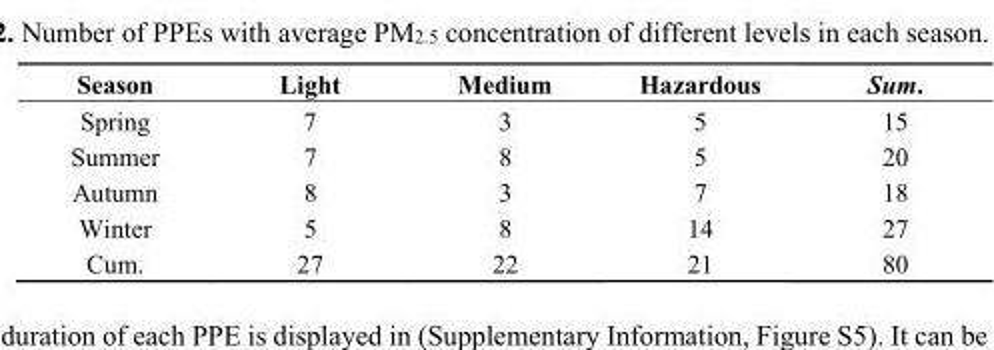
<table><thead><tr><td>Season</td><td>Light</td><td>Medium</td><td>Hazardous</td><td>Sum.</td></tr></thead><tbody><tr><td>Spring</td><td>7</td><td>3</td><td>5</td><td>15</td></tr><tr><td>Summer</td><td>7</td><td>8</td><td>5</td><td>20</td></tr><tr><td>Autumn</td><td>8</td><td>3</td><td>7</td><td>18</td></tr><tr><td>Winter</td><td>5</td><td>8</td><td>14</td><td>27</td></tr><tr><td>Cum.</td><td>27</td><td>22</td><td>21</td><td>80</td></tr></tbody></table>